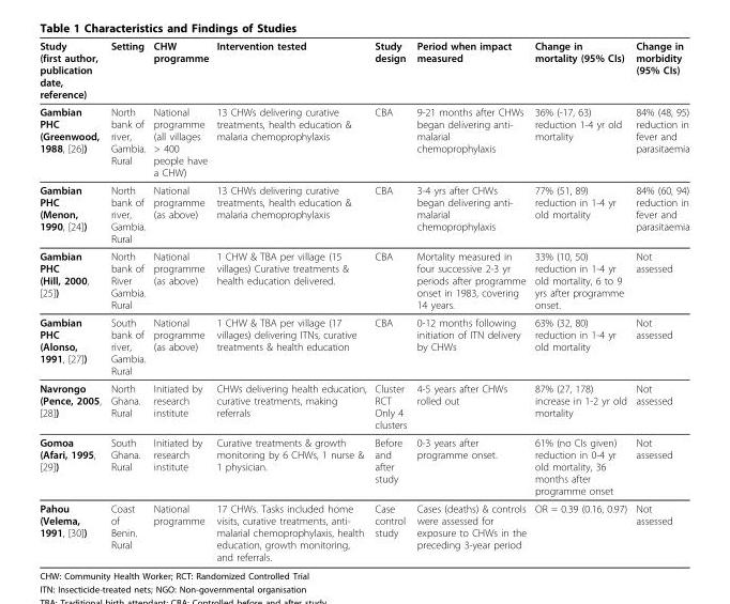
<table><thead><tr><td>Study (first author, publication date, reference)</td><td>Setting</td><td>CHW programme</td><td>Intervention tested</td><td>Study design</td><td>Period when impact measured</td><td>Change in mortality (95% CIs)</td><td>Change in morbidity (95% CIs)</td></tr></thead><tbody><tr><td>Gambian PHC (Greenwood, 1988, [26])</td><td>North bank of river, Gambia. Rural</td><td>National programme (all villages &gt; 400 people have a CHW)</td><td>13 CHWs delivering curative treatments, health education &amp; malaria chemoprophylaxis</td><td>CBA</td><td>9-21 months after CHWs began delivering anti- malarial chemoprophylaxis</td><td>36% (-17, 63) reduction 1-4 yr old mortality</td><td>84% (48, 95) reduction in fever and parasitaemia</td></tr><tr><td>Gambian PHC (Menon, 1990, [24])</td><td>North bank of river, Gambia. Rural</td><td>National programme (as above)</td><td>13 CHWs delivering curative treatments, health education &amp; malaria chemoprophylaxis</td><td>CBA</td><td>3-4 yrs after CHWs began delivering anti- malarial chemoprophylaxis</td><td>77% (51, 89) reduction in 1-4 yr old mortality</td><td>84% (60, 94) reduction in fever and parasitaemia</td></tr><tr><td>Gambian PHC (Hill, 2000, [25])</td><td>North bank of River Gambia. Rural</td><td>National programme (as above)</td><td>1 CHW &amp; TBA per village (15 villages) Curative treatments &amp; health education delivered.</td><td>CBA</td><td>Mortality measured in four successive 2-3 yr periods after programme onset in 1983, covering 14 years.</td><td>33% (10, 50) reduction in 1-4 yr old mortality, 6 to 9 yrs after programme onset.</td><td>Not assessed</td></tr><tr><td>Gambian PHC (Alonso, 1991, [27])</td><td>South bank of river, Gambia. Rural</td><td>National programme (as above)</td><td>1 CHW &amp; TBA per village (17 villages) delivering ITNs, curative treatments &amp; health education</td><td>CBA</td><td>0-12 months following initiation of ITN delivery by CHWs</td><td>63% (32, 80) reduction in 1-4 yr old mortality</td><td>Not assessed</td></tr><tr><td>Navrongo (Pence, 2005, [28])</td><td>North Ghana. Rural</td><td>Initiated by research institute</td><td>CHWs delivering health education, curative treatments, making referrals</td><td>Cluster RCT Only 4 clusters</td><td>4-5 years after CHWs rolled out</td><td>87% (27, 178) increase in 1-2 yr old mortality</td><td>Not assessed</td></tr><tr><td>Gomoa (Afari, 1995, [29])</td><td>South Ghana. Rural</td><td>Initiated by research institute</td><td>Curative treatments &amp; growth monitoring by 6 CHWs, 1 nurse &amp; 1 physician.</td><td>Before and after study</td><td>0-3 years after programme onset.</td><td>61% (no CIs given) reduction in 0-4 yr old mortality, 36 months after programme onset</td><td>Not assessed</td></tr><tr><td>Pahou (Velema, 1991, [30])</td><td>Coast of Benin. Rural</td><td>National programme</td><td>17 CHWs. Tasks included home visits, curative treatments, anti- malarial chemoprophylaxis, health education, growth monitoring, and referrals.</td><td>Case control study</td><td>Cases (deaths) &amp; controls were assessed for exposure to CHWs in the preceding 3-year period</td><td>OR = 0.39 (0.16, 0.97)</td><td>Not assessed</td></tr></tbody></table>